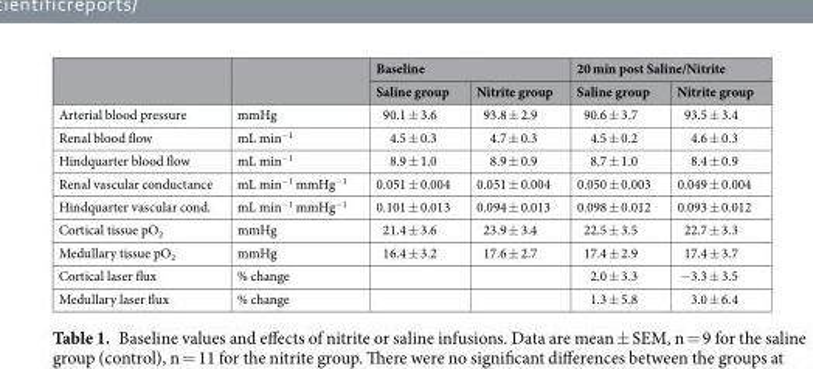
<table><thead><tr><td rowspan="2"></td><td rowspan="2"></td><td colspan="2">Baseline</td><td colspan="2">20 min post Saline/Nitrite</td></tr><tr><td>Saline group</td><td>Nitrite group</td><td>Saline group</td><td>Nitrite group</td></tr></thead><tbody><tr><td>Arterial blood pressure</td><td>mmHg</td><td>90.1 ± 3.6</td><td>93.8 ± 2.9</td><td>90.6 ± 3.7</td><td>93.5 ± 3.4</td></tr><tr><td>Renal blood flow</td><td>mL min<sup>−1</sup></td><td>4.5 ± 0.3</td><td>4.7 ± 0.3</td><td>4.5 ± 0.2</td><td>4.6 ± 0.3</td></tr><tr><td>Hindquarter blood flow</td><td>mL min<sup>−1</sup></td><td>8.9 ± 1.0</td><td>8.9 ± 0.9</td><td>8.7 ± 1.0</td><td>8.4 ± 0.9</td></tr><tr><td>Renal vascular conductance</td><td>mL min<sup>−1</sup> mmHg<sup>−1</sup></td><td>0.051 ± 0.004</td><td>0.051 ± 0.004</td><td>0.050 ± 0.003</td><td>0.049 ± 0.004</td></tr><tr><td>Hindquarter vascular cond.</td><td>mL min<sup>−1</sup> mmHg<sup>−1</sup></td><td>0.101 ± 0.013</td><td>0.094 ± 0.013</td><td>0.098 ± 0.012</td><td>0.093 ± 0.012</td></tr><tr><td>Cortical tissue pO<sub>2</sub></td><td>mmHg</td><td>21.4 ± 3.6</td><td>23.9 ± 3.4</td><td>22.5 ± 3.5</td><td>22.7 ± 3.3</td></tr><tr><td>Medullary tissue pO<sub>2</sub></td><td>mmHg</td><td>16.4 ± 3.2</td><td>17.6 ± 2.7</td><td>17.4 ± 2.9</td><td>17.4 ± 3.7</td></tr><tr><td>Cortical laser flux</td><td>% change</td><td></td><td></td><td>2.0 ± 3.3</td><td>−3.3 ± 3.5</td></tr><tr><td>Medullary laser flux</td><td>% change</td><td></td><td></td><td>1.3 ± 5.8</td><td>3.0 ± 6.4</td></tr></tbody></table>